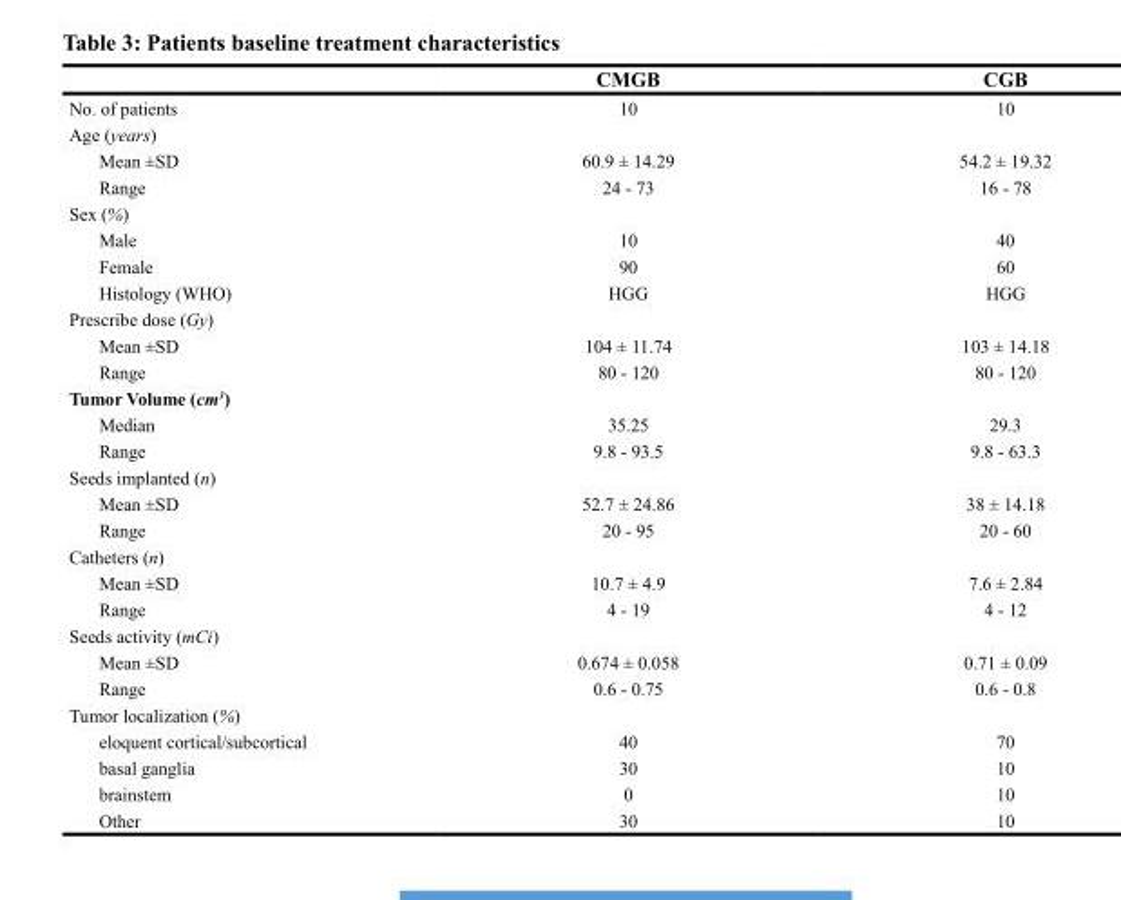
<table><thead><tr><td></td><td>CMGB</td><td>CGB</td></tr></thead><tbody><tr><td>No. of patients</td><td>10</td><td>10</td></tr><tr><td colspan="3">Age (years)</td></tr><tr><td>Mean ±SD</td><td>60.9 ± 14.29</td><td>54.2 ± 19.32</td></tr><tr><td>Range</td><td>24 - 73</td><td>16 - 78</td></tr><tr><td colspan="3">Sex (%)</td></tr><tr><td>Male</td><td>10</td><td>40</td></tr><tr><td>Female</td><td>90</td><td>60</td></tr><tr><td>Histology (WHO)</td><td>HGG</td><td>HGG</td></tr><tr><td colspan="3">Prescribe dose (Gy)</td></tr><tr><td>Mean ±SD</td><td>104 ± 11.74</td><td>103 ± 14.18</td></tr><tr><td>Range</td><td>80 - 120</td><td>80 - 120</td></tr><tr><td colspan="3">Tumor Volume (cm<sup>3</sup>)</td></tr><tr><td>Median</td><td>35.25</td><td>29.3</td></tr><tr><td>Range</td><td>9.8 - 93.5</td><td>9.8 - 63.3</td></tr><tr><td colspan="3">Seeds implanted (n)</td></tr><tr><td>Mean ±SD</td><td>52.7 ± 24.86</td><td>38 ± 14.18</td></tr><tr><td>Range</td><td>20 - 95</td><td>20 - 60</td></tr><tr><td colspan="3">Catheters (n)</td></tr><tr><td>Mean ±SD</td><td>10.7 ± 4.9</td><td>7.6 ± 2.84</td></tr><tr><td>Range</td><td>4 - 19</td><td>4 - 12</td></tr><tr><td colspan="3">Seeds activity (mCi)</td></tr><tr><td>Mean ±SD</td><td>0.674 ± 0.058</td><td>0.71 ± 0.09</td></tr><tr><td>Range</td><td>0.6 - 0.75</td><td>0.6 - 0.8</td></tr><tr><td colspan="3">Tumor localization (%)</td></tr><tr><td>eloquent cortical/subcortical</td><td>40</td><td>70</td></tr><tr><td>basal ganglia</td><td>30</td><td>10</td></tr><tr><td>brainstem</td><td>0</td><td>10</td></tr><tr><td>Other</td><td>30</td><td>10</td></tr></tbody></table>